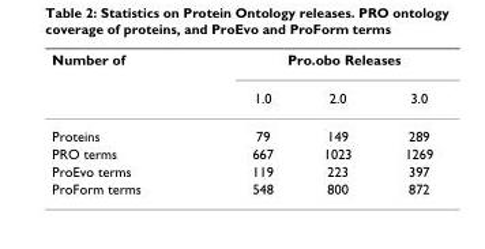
<table><thead><tr><td rowspan="2">Number of</td><td colspan="3">Pro.obo Releases</td></tr><tr><td>1.0</td><td>2.0</td><td>3.0</td></tr></thead><tbody><tr><td>Proteins</td><td>79</td><td>149</td><td>289</td></tr><tr><td>PRO terms</td><td>667</td><td>1023</td><td>1269</td></tr><tr><td>ProEvo terms</td><td>119</td><td>223</td><td>397</td></tr><tr><td>ProForm terms</td><td>548</td><td>800</td><td>872</td></tr></tbody></table>